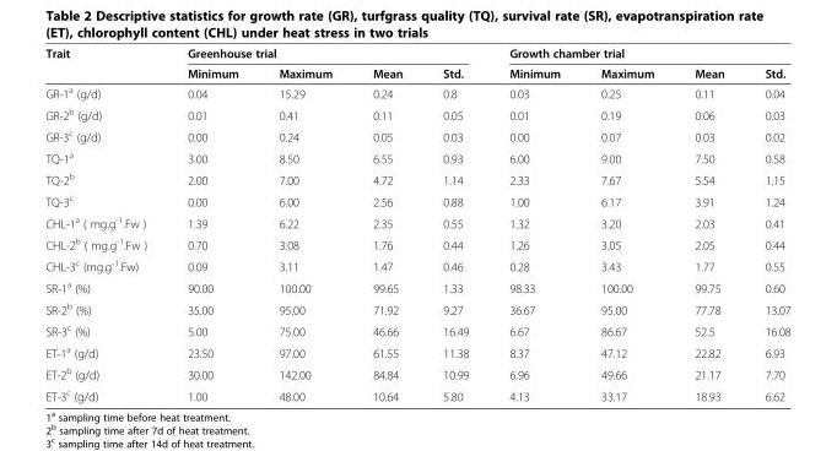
<table><thead><tr><td rowspan="2">Trait</td><td colspan="4">Greenhouse trial</td><td colspan="4">Growth chamber trial</td></tr><tr><td>Minimum</td><td>Maximum</td><td>Mean</td><td>Std.</td><td>Minimum</td><td>Maximum</td><td>Mean</td><td>Std.</td></tr></thead><tbody><tr><td>GR-1<sup>a</sup> (g/d)</td><td>0.04</td><td>15.29</td><td>0.24</td><td>0.8</td><td>0.03</td><td>0.25</td><td>0.11</td><td>0.04</td></tr><tr><td>GR-2<sup>b</sup> (g/d)</td><td>0.01</td><td>0.41</td><td>0.11</td><td>0.05</td><td>0.01</td><td>0.19</td><td>0.06</td><td>0.03</td></tr><tr><td>GR-3<sup>c</sup> (g/d)</td><td>0.00</td><td>0.24</td><td>0.05</td><td>0.03</td><td>0.00</td><td>0.07</td><td>0.03</td><td>0.02</td></tr><tr><td>TQ-1<sup>a</sup></td><td>3.00</td><td>8.50</td><td>6.55</td><td>0.93</td><td>6.00</td><td>9.00</td><td>7.50</td><td>0.58</td></tr><tr><td>TQ-2<sup>b</sup></td><td>2.00</td><td>7.00</td><td>4.72</td><td>1.14</td><td>2.33</td><td>7.67</td><td>5.54</td><td>1.15</td></tr><tr><td>TQ-3<sup>c</sup></td><td>0.00</td><td>6.00</td><td>2.56</td><td>0.88</td><td>1.00</td><td>6.17</td><td>3.91</td><td>1.24</td></tr><tr><td>CHL-1<sup>a</sup> ( mg.g<sup>-1</sup>.Fw )</td><td>1.39</td><td>6.22</td><td>2.35</td><td>0.55</td><td>1.32</td><td>3.20</td><td>2.03</td><td>0.41</td></tr><tr><td>CHL-2<sup>b</sup> ( mg.g<sup>-1</sup>.Fw )</td><td>0.70</td><td>3.08</td><td>1.76</td><td>0.44</td><td>1.26</td><td>3.05</td><td>2.05</td><td>0.44</td></tr><tr><td>CHL-3<sup>c</sup> (mg.g<sup>-1</sup>.Fw)</td><td>0.09</td><td>3.11</td><td>1.47</td><td>0.46</td><td>0.28</td><td>3.43</td><td>1.77</td><td>0.55</td></tr><tr><td>SR-1<sup>a</sup> (%)</td><td>90.00</td><td>100.00</td><td>99.65</td><td>1.33</td><td>98.33</td><td>100.00</td><td>99.75</td><td>0.60</td></tr><tr><td>SR-2<sup>b</sup> (%)</td><td>35.00</td><td>95.00</td><td>71.92</td><td>9.27</td><td>36.67</td><td>95.00</td><td>77.78</td><td>13.07</td></tr><tr><td>SR-3<sup>c</sup> (%)</td><td>5.00</td><td>75.00</td><td>46.66</td><td>16.49</td><td>6.67</td><td>86.67</td><td>52.5</td><td>16.08</td></tr><tr><td>ET-1<sup>a</sup> (g/d)</td><td>23.50</td><td>97.00</td><td>61.55</td><td>11.38</td><td>8.37</td><td>47.12</td><td>22.82</td><td>6.93</td></tr><tr><td>ET-2<sup>b</sup> (g/d)</td><td>30.00</td><td>142.00</td><td>84.84</td><td>10.99</td><td>6.96</td><td>49.66</td><td>21.17</td><td>7.70</td></tr><tr><td>ET-3<sup>c</sup> (g/d)</td><td>1.00</td><td>48.00</td><td>10.64</td><td>5.80</td><td>4.13</td><td>33.17</td><td>18.93</td><td>6.62</td></tr></tbody></table>